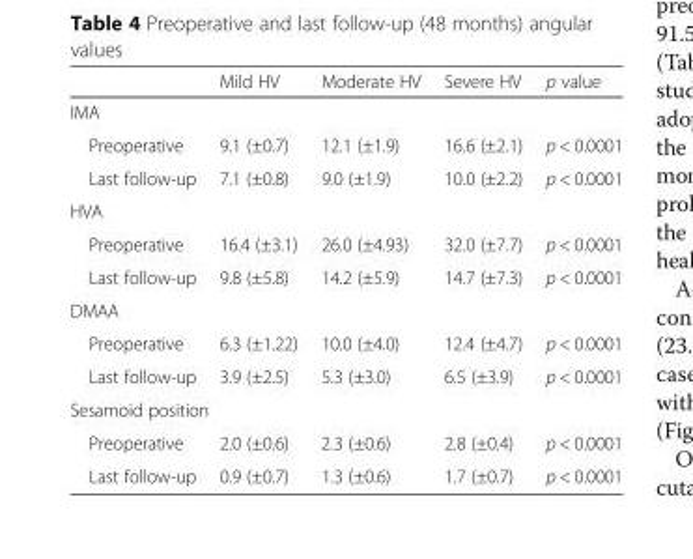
<table><thead><tr><td></td><td>Mild HV</td><td>Moderate HV</td><td>Severe HV</td><td>p value</td></tr></thead><tbody><tr><td colspan="5">IMA</td></tr><tr><td>Preoperative</td><td>9.1 (±0.7)</td><td>12.1 (±1.9)</td><td>16.6 (±2.1)</td><td>p &lt; 0.0001</td></tr><tr><td>Last follow-up</td><td>7.1 (±0.8)</td><td>9.0 (±1.9)</td><td>10.0 (±2.2)</td><td>p &lt; 0.0001</td></tr><tr><td colspan="5">HVA</td></tr><tr><td>Preoperative</td><td>16.4 (±3.1)</td><td>26.0 (±4.93)</td><td>32.0 (±7.7)</td><td>p &lt; 0.0001</td></tr><tr><td>Last follow-up</td><td>9.8 (±5.8)</td><td>14.2 (±5.9)</td><td>14.7 (±7.3)</td><td>p &lt; 0.0001</td></tr><tr><td colspan="5">DMAA</td></tr><tr><td>Preoperative</td><td>6.3 (±1.22)</td><td>10.0 (±4.0)</td><td>12.4 (±4.7)</td><td>p &lt; 0.0001</td></tr><tr><td>Last follow-up</td><td>3.9 (±2.5)</td><td>5.3 (±3.0)</td><td>6.5 (±3.9)</td><td>p &lt; 0.0001</td></tr><tr><td colspan="5">Sesamoid position</td></tr><tr><td>Preoperative</td><td>2.0 (±0.6)</td><td>2.3 (±0.6)</td><td>2.8 (±0.4)</td><td>p &lt; 0.0001</td></tr><tr><td>Last follow-up</td><td>0.9 (±0.7)</td><td>1.3 (±0.6)</td><td>1.7 (±0.7)</td><td>p &lt; 0.0001</td></tr></tbody></table>